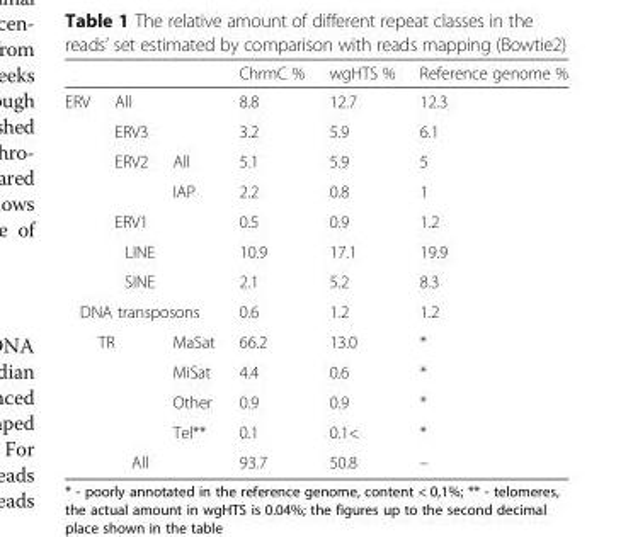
<table><thead><tr><td></td><td></td><td></td><td>ChrmC %</td><td>wgHTS %</td><td>Reference genome %</td></tr></thead><tbody><tr><td rowspan="5">ERV</td><td colspan="2">All</td><td>8.8</td><td>12.7</td><td>12.3</td></tr><tr><td colspan="2">ERV3</td><td>3.2</td><td>5.9</td><td>6.1</td></tr><tr><td rowspan="2">ERV2</td><td>All</td><td>5.1</td><td>5.9</td><td>5</td></tr><tr><td>IAP</td><td>2.2</td><td>0.8</td><td>1</td></tr><tr><td colspan="2">ERV1</td><td>0.5</td><td>0.9</td><td>1.2</td></tr><tr><td colspan="3">LINE</td><td>10.9</td><td>17.1</td><td>19.9</td></tr><tr><td colspan="3">SINE</td><td>2.1</td><td>5.2</td><td>8.3</td></tr><tr><td colspan="3">DNA transposons</td><td>0.6</td><td>1.2</td><td>1.2</td></tr><tr><td rowspan="4" colspan="2">TR</td><td>MaSat</td><td>66.2</td><td>13.0</td><td>*</td></tr><tr><td>MiSat</td><td>4.4</td><td>0.6</td><td>*</td></tr><tr><td>Other</td><td>0.9</td><td>0.9</td><td>*</td></tr><tr><td>Tel**</td><td>0.1</td><td>0.1&lt;</td><td>*</td></tr><tr><td colspan="3">All</td><td>93.7</td><td>50.8</td><td>–</td></tr></tbody></table>